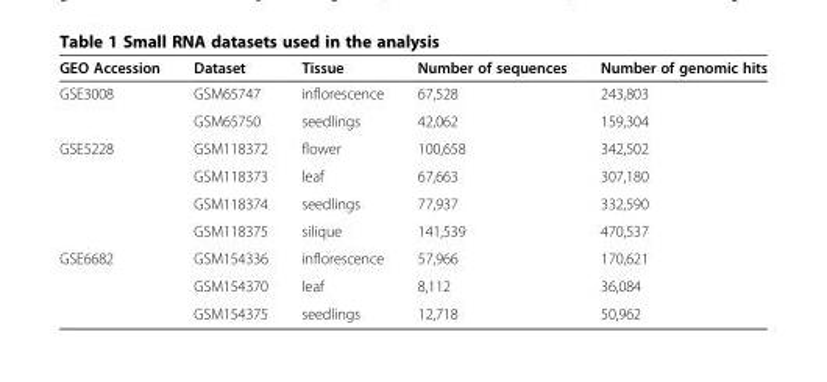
<table><thead><tr><td>GEO Accession</td><td>Dataset</td><td>Tissue</td><td>Number of sequences</td><td>Number of genomic hits</td></tr></thead><tbody><tr><td rowspan="2">GSE3008</td><td>GSM65747</td><td>inflorescence</td><td>67,528</td><td>243,803</td></tr><tr><td>GSM65750</td><td>seedlings</td><td>42,062</td><td>159,304</td></tr><tr><td rowspan="4">GSE5228</td><td>GSM118372</td><td>flower</td><td>100,658</td><td>342,502</td></tr><tr><td>GSM118373</td><td>leaf</td><td>67,663</td><td>307,180</td></tr><tr><td>GSM118374</td><td>seedlings</td><td>77,937</td><td>332,590</td></tr><tr><td>GSM118375</td><td>silique</td><td>141,539</td><td>470,537</td></tr><tr><td rowspan="3">GSE6682</td><td>GSM154336</td><td>inflorescence</td><td>57,966</td><td>170,621</td></tr><tr><td>GSM154370</td><td>leaf</td><td>8,112</td><td>36,084</td></tr><tr><td>GSM154375</td><td>seedlings</td><td>12,718</td><td>50,962</td></tr></tbody></table>